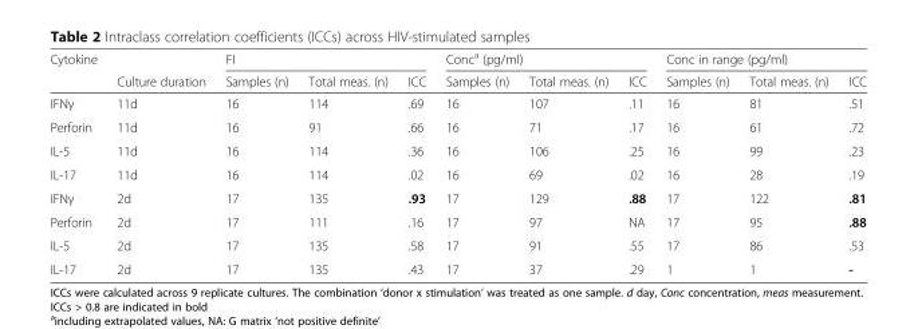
<table><thead><tr><td rowspan="2">Cytokine</td><td rowspan="2">Culture duration</td><td colspan="3">FI</td><td colspan="3">Conc<sup>a</sup> (pg/ml)</td><td colspan="3">Conc in range (pg/ml)</td></tr><tr><td>Samples (n)</td><td>Total meas. (n)</td><td>ICC</td><td>Samples (n)</td><td>Total meas. (n)</td><td>ICC</td><td>Samples (n)</td><td>Total meas. (n)</td><td>ICC</td></tr></thead><tbody><tr><td>IFNγ</td><td>11d</td><td>16</td><td>114</td><td>.69</td><td>16</td><td>107</td><td>.11</td><td>16</td><td>81</td><td>.51</td></tr><tr><td>Perforin</td><td>11d</td><td>16</td><td>91</td><td>.66</td><td>16</td><td>71</td><td>.17</td><td>16</td><td>61</td><td>.72</td></tr><tr><td>IL-5</td><td>11d</td><td>16</td><td>114</td><td>.36</td><td>16</td><td>106</td><td>.25</td><td>16</td><td>99</td><td>.23</td></tr><tr><td>IL-17</td><td>11d</td><td>16</td><td>114</td><td>.02</td><td>16</td><td>69</td><td>.02</td><td>16</td><td>28</td><td>.19</td></tr><tr><td>IFNγ</td><td>2d</td><td>17</td><td>135</td><td>.93</td><td>17</td><td>129</td><td>.88</td><td>17</td><td>122</td><td>.81</td></tr><tr><td>Perforin</td><td>2d</td><td>17</td><td>111</td><td>.16</td><td>17</td><td>97</td><td>NA</td><td>17</td><td>95</td><td>.88</td></tr><tr><td>IL-5</td><td>2d</td><td>17</td><td>135</td><td>.58</td><td>17</td><td>91</td><td>.55</td><td>17</td><td>86</td><td>.53</td></tr><tr><td>IL-17</td><td>2d</td><td>17</td><td>135</td><td>.43</td><td>17</td><td>37</td><td>.29</td><td>1</td><td>1</td><td>-</td></tr></tbody></table>